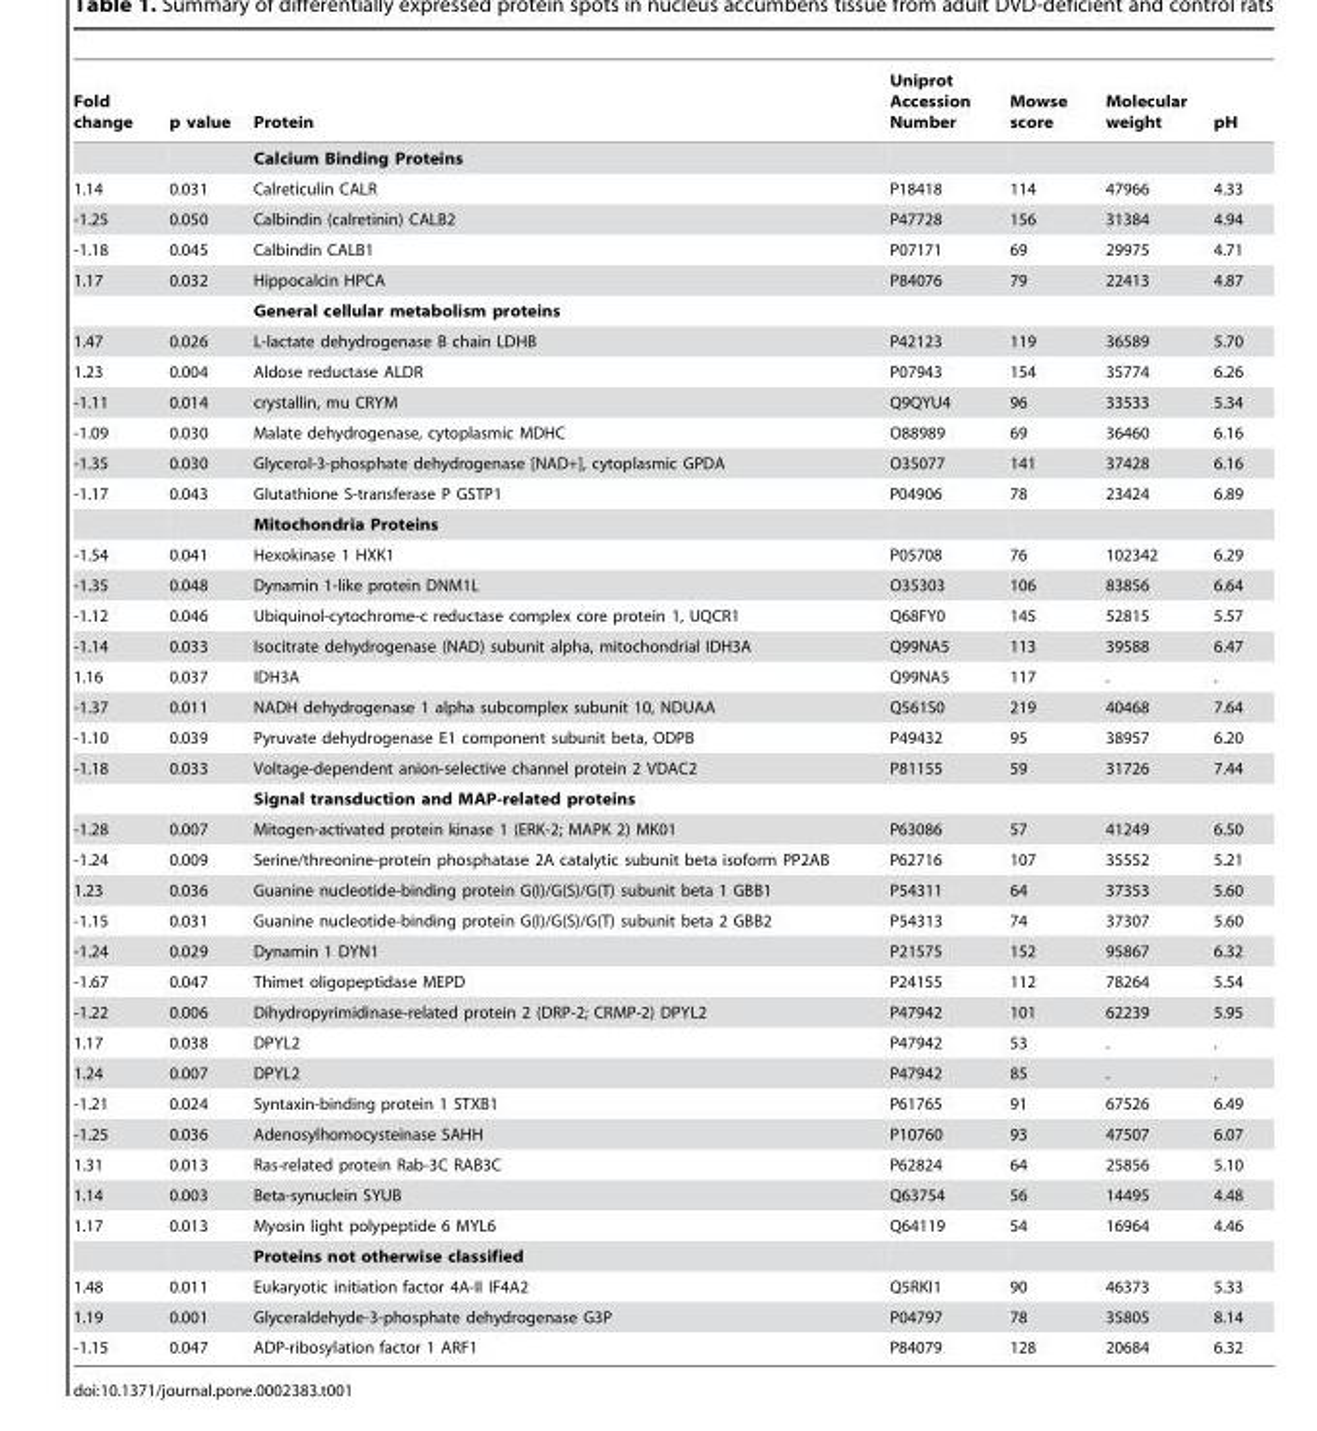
<table><thead><tr><td>Fold change</td><td>p value</td><td>Protein</td><td>Uniprot Accession Number</td><td>Mowse score</td><td>Molecular weight</td><td>pH</td></tr></thead><tbody><tr><td></td><td></td><td>Calcium Binding Proteins</td><td></td><td></td><td></td><td></td></tr><tr><td>1.14</td><td>0.031</td><td>Calreticulin CALR</td><td>P18418</td><td>114</td><td>47966</td><td>4.33</td></tr><tr><td>-1.25</td><td>0.050</td><td>Calbindin (calretinin) CALB2</td><td>P47728</td><td>156</td><td>31384</td><td>4.94</td></tr><tr><td>-1.18</td><td>0.045</td><td>Calbindin CALB1</td><td>P07171</td><td>69</td><td>29975</td><td>4.71</td></tr><tr><td rowspan="2">1.17</td><td>0.032</td><td>Hippocalcin HPCA</td><td>P84076</td><td>79</td><td>22413</td><td>4.87</td></tr><tr><td></td><td>General cellular metabolism proteins</td><td></td><td></td><td></td><td></td></tr><tr><td>1.47</td><td>0.026</td><td>L-lactate dehydrogenase B chain LDHB</td><td>P42123</td><td>119</td><td>36589</td><td>5.70</td></tr><tr><td>1.23</td><td>0.004</td><td>Aldose reductase ALDR</td><td>P07943</td><td>154</td><td>35774</td><td>6.26</td></tr><tr><td>-1.11</td><td>0.014</td><td>crystallin, mu CRYM</td><td>Q9QYU4</td><td>96</td><td>33533</td><td>5.34</td></tr><tr><td>-1.09</td><td>0.030</td><td>Malate dehydrogenase, cytoplasmic MDHC</td><td>O88989</td><td>69</td><td>36460</td><td>6.16</td></tr><tr><td>-1.35</td><td>0.030</td><td>Glycerol-3-phosphate dehydrogenase [NAD+], cytoplasmic GPDA</td><td>O35077</td><td>141</td><td>37428</td><td>6.16</td></tr><tr><td rowspan="2">-1.17</td><td>0.043</td><td>Glutathione S-transferase P GSTP1</td><td>P04906</td><td>78</td><td>23424</td><td>6.89</td></tr><tr><td></td><td>Mitochondria Proteins</td><td></td><td></td><td></td><td></td></tr><tr><td>-1.54</td><td>0.041</td><td>Hexokinase 1 HXK1</td><td>P05708</td><td>76</td><td>102342</td><td>6.29</td></tr><tr><td>-1.35</td><td>0.048</td><td>Dynamin 1-like protein DNM1L</td><td>O35303</td><td>106</td><td>83856</td><td>6.64</td></tr><tr><td>-1.12</td><td>0.046</td><td>Ubiquinol-cytochrome-c reductase complex core protein 1, UQCR1</td><td>Q68FY0</td><td>145</td><td>52815</td><td>5.57</td></tr><tr><td>-1.14</td><td>0.033</td><td>Isocitrate dehydrogenase (NAD) subunit alpha, mitochondrial IDH3A</td><td>Q99NA5</td><td>113</td><td>39588</td><td>6.47</td></tr><tr><td>1.16</td><td>0.037</td><td>IDH3A</td><td>Q99NA5</td><td>117</td><td>.</td><td>.</td></tr><tr><td>-1.37</td><td>0.011</td><td>NADH dehydrogenase 1 alpha subcomplex subunit 10, NDUAA</td><td>Q561S0</td><td>219</td><td>40468</td><td>7.64</td></tr><tr><td>-1.10</td><td>0.039</td><td>Pyruvate dehydrogenase E1 component subunit beta, ODPB</td><td>P49432</td><td>95</td><td>38957</td><td>6.20</td></tr><tr><td rowspan="2">-1.18</td><td>0.033</td><td>Voltage-dependent anion-selective channel protein 2 VDAC2</td><td>P81155</td><td>59</td><td>31726</td><td>7.44</td></tr><tr><td></td><td>Signal transduction and MAP-related proteins</td><td></td><td></td><td></td><td></td></tr><tr><td>-1.28</td><td>0.007</td><td>Mitogen-activated protein kinase 1 (ERK-2; MAPK 2) MK01</td><td>P63086</td><td>57</td><td>41249</td><td>6.50</td></tr><tr><td>-1.24</td><td>0.009</td><td>Serine/threonine-protein phosphatase 2A catalytic subunit beta isoform PP2AB</td><td>P62716</td><td>107</td><td>35552</td><td>5.21</td></tr><tr><td>1.23</td><td>0.036</td><td>Guanine nucleotide-binding protein G(I)/G(S)/G(T) subunit beta 1 GBB1</td><td>P54311</td><td>64</td><td>37353</td><td>5.60</td></tr><tr><td>-1.15</td><td>0.031</td><td>Guanine nucleotide-binding protein G(I)/G(S)/G(T) subunit beta 2 GBB2</td><td>P54313</td><td>74</td><td>37307</td><td>5.60</td></tr><tr><td>-1.24</td><td>0.029</td><td>Dynamin 1 DYN1</td><td>P21575</td><td>152</td><td>95867</td><td>6.32</td></tr><tr><td>-1.67</td><td>0.047</td><td>Thimet oligopeptidase MEPD</td><td>P24155</td><td>112</td><td>78264</td><td>5.54</td></tr><tr><td>-1.22</td><td>0.006</td><td>Dihydropyrimidinase-related protein 2 (DRP-2; CRMP-2) DPYL2</td><td>P47942</td><td>101</td><td>62239</td><td>5.95</td></tr><tr><td>1.17</td><td>0.038</td><td>DPYL2</td><td>P47942</td><td>53</td><td>.</td><td>.</td></tr><tr><td>1.24</td><td>0.007</td><td>DPYL2</td><td>P47942</td><td>85</td><td>.</td><td>.</td></tr><tr><td>-1.21</td><td>0.024</td><td>Syntaxin-binding protein 1 STXB1</td><td>P61765</td><td>91</td><td>67526</td><td>6.49</td></tr><tr><td>-1.25</td><td>0.036</td><td>Adenosylhomocysteinase SAHH</td><td>P10760</td><td>93</td><td>47507</td><td>6.07</td></tr><tr><td>1.31</td><td>0.013</td><td>Ras-related protein Rab-3C RAB3C</td><td>P62824</td><td>64</td><td>25856</td><td>5.10</td></tr><tr><td>1.14</td><td>0.003</td><td>Beta-synuclein SYUB</td><td>Q63754</td><td>56</td><td>14495</td><td>4.48</td></tr><tr><td rowspan="2">1.17</td><td>0.013</td><td>Myosin light polypeptide 6 MYL6</td><td>Q64119</td><td>54</td><td>16964</td><td>4.46</td></tr><tr><td></td><td>Proteins not otherwise classified</td><td></td><td></td><td></td><td></td></tr><tr><td>1.48</td><td>0.011</td><td>Eukaryotic initiation factor 4A-II IF4A2</td><td>Q5RKI1</td><td>90</td><td>46373</td><td>5.33</td></tr><tr><td>1.19</td><td>0.001</td><td>Glyceraldehyde-3-phosphate dehydrogenase G3P</td><td>P04797</td><td>78</td><td>35805</td><td>8.14</td></tr><tr><td>-1.15</td><td>0.047</td><td>ADP-ribosylation factor 1 ARF1</td><td>P84079</td><td>128</td><td>20684</td><td>6.32</td></tr></tbody></table>